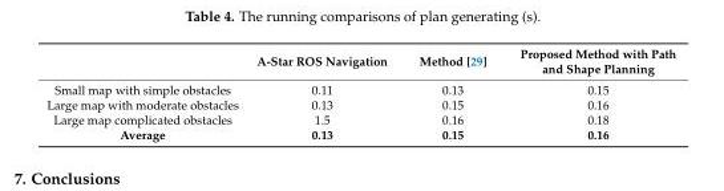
<table><thead><tr><td></td><td>A-Star ROS Navigation</td><td>Method [29]</td><td>Proposed Method with Path and Shape Planning</td></tr></thead><tbody><tr><td>Small map with simple obstacles</td><td>0.11</td><td>0.13</td><td>0.15</td></tr><tr><td>Large map with moderate obstacles</td><td>0.13</td><td>0.15</td><td>0.16</td></tr><tr><td>Large map complicated obstacles</td><td>1.5</td><td>0.16</td><td>0.18</td></tr><tr><td>Average</td><td>0.13</td><td>0.15</td><td>0.16</td></tr></tbody></table>